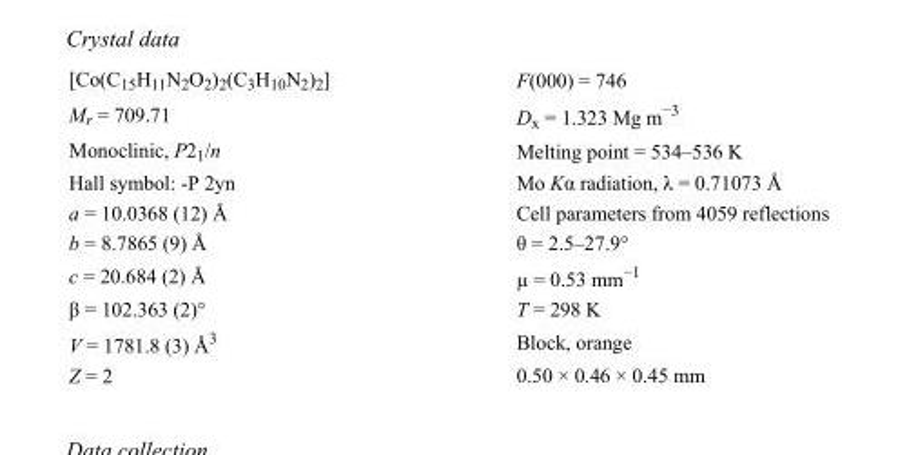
<table><tbody><tr><td>[Co(C<sub>15</sub>H<sub>11</sub>N<sub>2</sub>O<sub>2</sub>)<sub>2</sub>(C<sub>3</sub>H<sub>10</sub>N<sub>2</sub>)<sub>2</sub>]</td><td>F(000) = 746</td></tr><tr><td>M<sub>r</sub> = 709.71</td><td>D<sub>x</sub> = 1.323 Mg m<sup>−3</sup></td></tr><tr><td>Monoclinic, P2<sub>1</sub>/n</td><td>Melting point = 534–536 K</td></tr><tr><td>Hall symbol: -P 2yn</td><td>Mo Kα radiation, λ = 0.71073 Å</td></tr><tr><td>a = 10.0368 (12) Å</td><td>Cell parameters from 4059 reflections</td></tr><tr><td>b = 8.7865 (9) Å</td><td>θ = 2.5–27.9°</td></tr><tr><td>c = 20.684 (2) Å</td><td>µ = 0.53 mm<sup>−1</sup></td></tr><tr><td>β = 102.363 (2)°</td><td>T = 298 K</td></tr><tr><td>V = 1781.8 (3) Å<sup>3</sup></td><td>Block, orange</td></tr><tr><td>Z = 2</td><td>0.50 × 0.46 × 0.45 mm</td></tr></tbody></table>